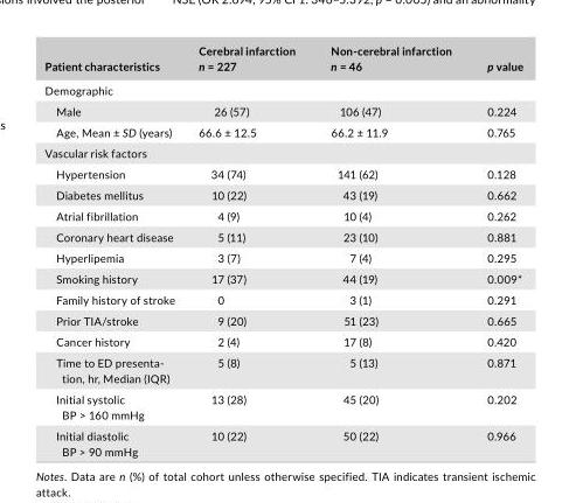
<table><thead><tr><td>Patient characteristics</td><td>Cerebral infarction n = 227</td><td>Non- cerebral infarction n = 46</td><td>p value</td></tr></thead><tbody><tr><td colspan="4">Demographic</td></tr><tr><td>Male</td><td>26 (57)</td><td>106 (47)</td><td>0.224</td></tr><tr><td>Age, Mean ± SD (years)</td><td>66.6 ± 12.5</td><td>66.2 ± 11.9</td><td>0.765</td></tr><tr><td colspan="4">Vascular risk factors</td></tr><tr><td>Hypertension</td><td>34 (74)</td><td>141 (62)</td><td>0.128</td></tr><tr><td>Diabetes mellitus</td><td>10 (22)</td><td>43 (19)</td><td>0.662</td></tr><tr><td>Atrial fibrillation</td><td>4 (9)</td><td>10 (4)</td><td>0.262</td></tr><tr><td>Coronary heart disease</td><td>5 (11)</td><td>23 (10)</td><td>0.881</td></tr><tr><td>Hyperlipemia</td><td>3 (7)</td><td>7 (4)</td><td>0.295</td></tr><tr><td>Smoking history</td><td>17 (37)</td><td>44 (19)</td><td>0.009*</td></tr><tr><td>Family history of stroke</td><td>0</td><td>3 (1)</td><td>0.291</td></tr><tr><td>Prior TIA/stroke</td><td>9 (20)</td><td>51 (23)</td><td>0.665</td></tr><tr><td>Cancer history</td><td>2 (4)</td><td>17 (8)</td><td>0.420</td></tr><tr><td>Time to ED presenta- tion, hr, Median (IQR)</td><td>5 (8)</td><td>5 (13)</td><td>0.871</td></tr><tr><td>Initial systolic BP &gt; 160 mmHg</td><td>13 (28)</td><td>45 (20)</td><td>0.202</td></tr><tr><td>Initial diastolic BP &gt; 90 mmHg</td><td>10 (22)</td><td>50 (22)</td><td>0.966</td></tr></tbody></table>